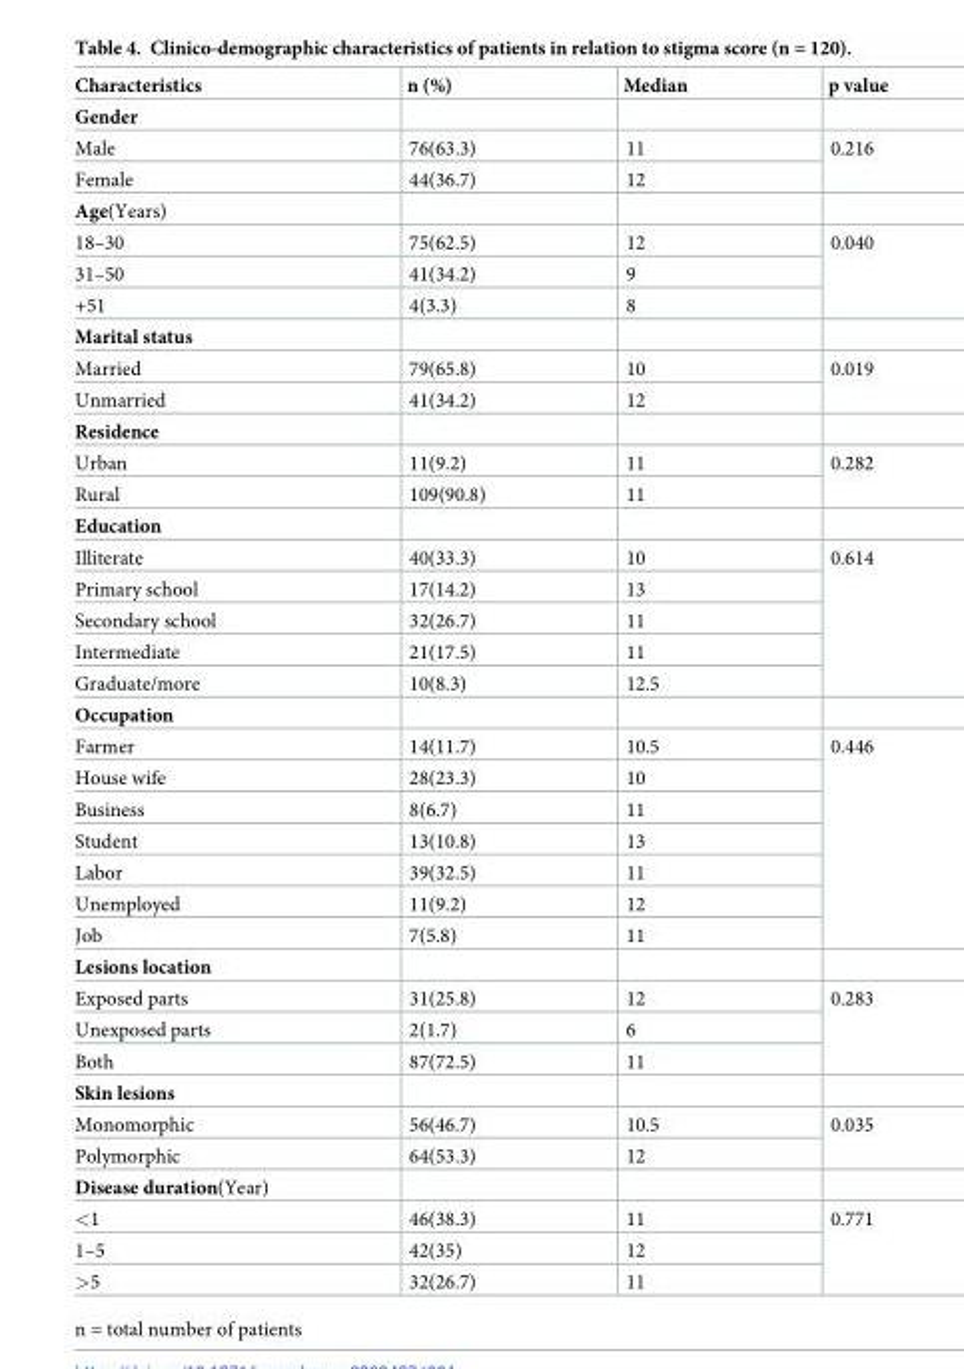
<table><thead><tr><td>Characteristics</td><td>n (%)</td><td>Median</td><td>p value</td></tr></thead><tbody><tr><td colspan="4">Gender</td></tr><tr><td>Male</td><td>76(63.3)</td><td>11</td><td rowspan="2">0.216</td></tr><tr><td>Female</td><td>44(36.7)</td><td>12</td></tr><tr><td colspan="4">Age(Years)</td></tr><tr><td>18–30</td><td>75(62.5)</td><td>12</td><td rowspan="3">0.040</td></tr><tr><td>31–50</td><td>41(34.2)</td><td>9</td></tr><tr><td>+51</td><td>4(3.3)</td><td>8</td></tr><tr><td colspan="4">Marital status</td></tr><tr><td>Married</td><td>79(65.8)</td><td>10</td><td rowspan="2">0.019</td></tr><tr><td>Unmarried</td><td>41(34.2)</td><td>12</td></tr><tr><td colspan="4">Residence</td></tr><tr><td>Urban</td><td>11(9.2)</td><td>11</td><td rowspan="2">0.282</td></tr><tr><td>Rural</td><td>109(90.8)</td><td>11</td></tr><tr><td colspan="4">Education</td></tr><tr><td>Illiterate</td><td>40(33.3)</td><td>10</td><td rowspan="5">0.614</td></tr><tr><td>Primary school</td><td>17(14.2)</td><td>13</td></tr><tr><td>Secondary school</td><td>32(26.7)</td><td>11</td></tr><tr><td>Intermediate</td><td>21(17.5)</td><td>11</td></tr><tr><td>Graduate/more</td><td>10(8.3)</td><td>12.5</td></tr><tr><td colspan="4">Occupation</td></tr><tr><td>Farmer</td><td>14(11.7)</td><td>10.5</td><td rowspan="7">0.446</td></tr><tr><td>House wife</td><td>28(23.3)</td><td>10</td></tr><tr><td>Business</td><td>8(6.7)</td><td>11</td></tr><tr><td>Student</td><td>13(10.8)</td><td>13</td></tr><tr><td>Labor</td><td>39(32.5)</td><td>11</td></tr><tr><td>Unemployed</td><td>11(9.2)</td><td>12</td></tr><tr><td>Job</td><td>7(5.8)</td><td>11</td></tr><tr><td colspan="4">Lesions location</td></tr><tr><td>Exposed parts</td><td>31(25.8)</td><td>12</td><td rowspan="3">0.283</td></tr><tr><td>Unexposed parts</td><td>2(1.7)</td><td>6</td></tr><tr><td>Both</td><td>87(72.5)</td><td>11</td></tr><tr><td colspan="4">Skin lesions</td></tr><tr><td>Monomorphic</td><td>56(46.7)</td><td>10.5</td><td rowspan="2">0.035</td></tr><tr><td>Polymorphic</td><td>64(53.3)</td><td>12</td></tr><tr><td colspan="4">Disease duration(Year)</td></tr><tr><td>&lt;1</td><td>46(38.3)</td><td>11</td><td rowspan="3">0.771</td></tr><tr><td>1–5</td><td>42(35)</td><td>12</td></tr><tr><td>&gt;5</td><td>32(26.7)</td><td>11</td></tr></tbody></table>